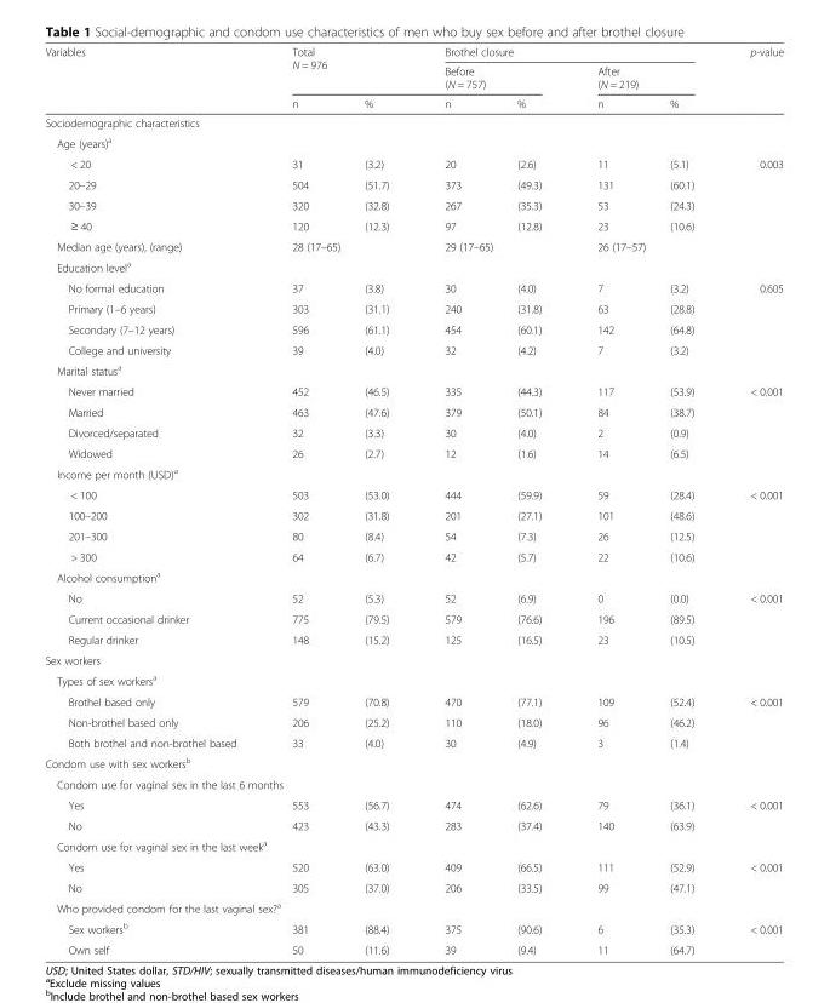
<table><thead><tr><td rowspan="3">Variables</td><td rowspan="2" colspan="2">Total N = 976</td><td colspan="4">Brothel closure</td><td rowspan="3">p-value</td></tr><tr><td colspan="2">Before (N = 757)</td><td colspan="2">After (N = 219)</td></tr><tr><td>n</td><td>%</td><td>n</td><td>%</td><td>n</td><td>%</td></tr></thead><tbody><tr><td colspan="8">Sociodemographic characteristics</td></tr><tr><td colspan="8">Age (years)<sup>a</sup></td></tr><tr><td>&lt; 20</td><td>31</td><td>(3.2)</td><td>20</td><td>(2.6)</td><td>11</td><td>(5.1)</td><td rowspan="4">0.003</td></tr><tr><td>20–29</td><td>504</td><td>(51.7)</td><td>373</td><td>(49.3)</td><td>131</td><td>(60.1)</td></tr><tr><td>30–39</td><td>320</td><td>(32.8)</td><td>267</td><td>(35.3)</td><td>53</td><td>(24.3)</td></tr><tr><td>≥ 40</td><td>120</td><td>(12.3)</td><td>97</td><td>(12.8)</td><td>23</td><td>(10.6)</td></tr><tr><td>Median age (years), (range)</td><td colspan="2">28 (17–65)</td><td colspan="2">29 (17–65)</td><td colspan="2">26 (17–57)</td><td></td></tr><tr><td colspan="8">Education level<sup>a</sup></td></tr><tr><td>No formal education</td><td>37</td><td>(3.8)</td><td>30</td><td>(4.0)</td><td>7</td><td>(3.2)</td><td rowspan="4">0.605</td></tr><tr><td>Primary (1–6 years)</td><td>303</td><td>(31.1)</td><td>240</td><td>(31.8)</td><td>63</td><td>(28.8)</td></tr><tr><td>Secondary (7–12 years)</td><td>596</td><td>(61.1)</td><td>454</td><td>(60.1)</td><td>142</td><td>(64.8)</td></tr><tr><td>College and university</td><td>39</td><td>(4.0)</td><td>32</td><td>(4.2)</td><td>7</td><td>(3.2)</td></tr><tr><td colspan="8">Marital status<sup>a</sup></td></tr><tr><td>Never married</td><td>452</td><td>(46.5)</td><td>335</td><td>(44.3)</td><td>117</td><td>(53.9)</td><td rowspan="4">&lt; 0.001</td></tr><tr><td>Married</td><td>463</td><td>(47.6)</td><td>379</td><td>(50.1)</td><td>84</td><td>(38.7)</td></tr><tr><td>Divorced/separated</td><td>32</td><td>(3.3)</td><td>30</td><td>(4.0)</td><td>2</td><td>(0.9)</td></tr><tr><td>Widowed</td><td>26</td><td>(2.7)</td><td>12</td><td>(1.6)</td><td>14</td><td>(6.5)</td></tr><tr><td colspan="8">Income per month (USD)<sup>a</sup></td></tr><tr><td>&lt; 100</td><td>503</td><td>(53.0)</td><td>444</td><td>(59.9)</td><td>59</td><td>(28.4)</td><td rowspan="4">&lt; 0.001</td></tr><tr><td>100–200</td><td>302</td><td>(31.8)</td><td>201</td><td>(27.1)</td><td>101</td><td>(48.6)</td></tr><tr><td>201–300</td><td>80</td><td>(8.4)</td><td>54</td><td>(7.3)</td><td>26</td><td>(12.5)</td></tr><tr><td>&gt; 300</td><td>64</td><td>(6.7)</td><td>42</td><td>(5.7)</td><td>22</td><td>(10.6)</td></tr><tr><td colspan="8">Alcohol consumption<sup>a</sup></td></tr><tr><td>No</td><td>52</td><td>(5.3)</td><td>52</td><td>(6.9)</td><td>0</td><td>(0.0)</td><td rowspan="3">&lt; 0.001</td></tr><tr><td>Current occasional drinker</td><td>775</td><td>(79.5)</td><td>579</td><td>(76.6)</td><td>196</td><td>(89.5)</td></tr><tr><td>Regular drinker</td><td>148</td><td>(15.2)</td><td>125</td><td>(16.5)</td><td>23</td><td>(10.5)</td></tr><tr><td colspan="8">Sex workers</td></tr><tr><td colspan="8">Types of sex workers<sup>a</sup></td></tr><tr><td>Brothel based only</td><td>579</td><td>(70.8)</td><td>470</td><td>(77.1)</td><td>109</td><td>(52.4)</td><td rowspan="2">&lt; 0.001</td></tr><tr><td>Non-brothel based only</td><td>206</td><td>(25.2)</td><td>110</td><td>(18.0)</td><td>96</td><td>(46.2)</td></tr><tr><td>Both brothel and non-brothel based</td><td>33</td><td>(4.0)</td><td>30</td><td>(4.9)</td><td>3</td><td>(1.4)</td><td></td></tr><tr><td colspan="8">Condom use with sex workers<sup>b</sup></td></tr><tr><td colspan="8">Condom use for vaginal sex in the last 6 months</td></tr><tr><td>Yes</td><td>553</td><td>(56.7)</td><td>474</td><td>(62.6)</td><td>79</td><td>(36.1)</td><td>&lt; 0.001</td></tr><tr><td>No</td><td>423</td><td>(43.3)</td><td>283</td><td>(37.4)</td><td>140</td><td>(63.9)</td><td></td></tr><tr><td colspan="8">Condom use for vaginal sex in the last week<sup>a</sup></td></tr><tr><td>Yes</td><td>520</td><td>(63.0)</td><td>409</td><td>(66.5)</td><td>111</td><td>(52.9)</td><td>&lt; 0.001</td></tr><tr><td>No</td><td>305</td><td>(37.0)</td><td>206</td><td>(33.5)</td><td>99</td><td>(47.1)</td><td></td></tr><tr><td colspan="8">Who provided condom for the last vaginal sex?<sup>a</sup></td></tr><tr><td>Sex workers<sup>b</sup></td><td>381</td><td>(88.4)</td><td>375</td><td>(90.6)</td><td>6</td><td>(35.3)</td><td>&lt; 0.001</td></tr><tr><td>Own self</td><td>50</td><td>(11.6)</td><td>39</td><td>(9.4)</td><td>11</td><td>(64.7)</td><td></td></tr></tbody></table>